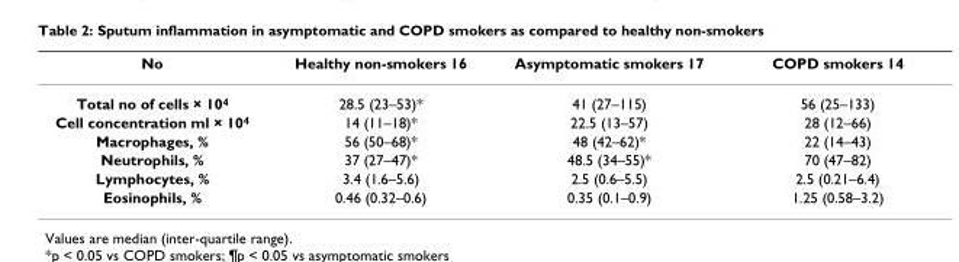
<table><thead><tr><td>No</td><td>Healthy non-smokers 16</td><td>Asymptomatic smokers 17</td><td>COPD smokers 14</td></tr></thead><tbody><tr><td>Total no of cells × 10<sup>4</sup></td><td>28.5 (23–53)*</td><td>41 (27–115)</td><td>56 (25–133)</td></tr><tr><td>Cell concentration ml × 10<sup>4</sup></td><td>14 (11–18)*</td><td>22.5 (13–57)</td><td>28 (12–66)</td></tr><tr><td>Macrophages, %</td><td>56 (50–68)*</td><td>48 (42–62)*</td><td>22 (14–43)</td></tr><tr><td>Neutrophils, %</td><td>37 (27–47)*</td><td>48.5 (34–55)*</td><td>70 (47–82)</td></tr><tr><td>Lymphocytes, %</td><td>3.4 (1.6–5.6)</td><td>2.5 (0.6–5.5)</td><td>2.5 (0.21–6.4)</td></tr><tr><td>Eosinophils, %</td><td>0.46 (0.32–0.6)</td><td>0.35 (0.1–0.9)</td><td>1.25 (0.58–3.2)</td></tr></tbody></table>